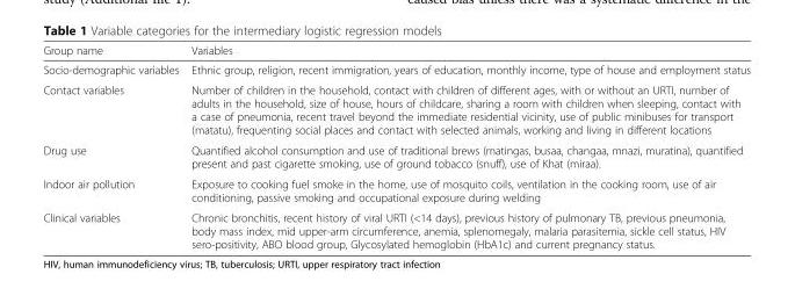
<table><thead><tr><td>Group name</td><td>Variables</td></tr></thead><tbody><tr><td>Socio-demographic variables</td><td>Ethnic group, religion, recent immigration, years of education, monthly income, type of house and employment status</td></tr><tr><td>Contact variables</td><td>Number of children in the household, contact with children of different ages, with or without an URTI, number of adults in the household, size of house, hours of childcare, sharing a room with children when sleeping, contact with a case of pneumonia, recent travel beyond the immediate residential vicinity, use of public minibuses for transport (matatu), frequenting social places and contact with selected animals, working and living in different locations</td></tr><tr><td>Drug use</td><td>Quantified alcohol consumption and use of traditional brews (matingas, busaa, changaa, mnazi, muratina), quantified present and past cigarette smoking, use of ground tobacco (snuff), use of Khat (miraa).</td></tr><tr><td>Indoor air pollution</td><td>Exposure to cooking fuel smoke in the home, use of mosquito coils, ventilation in the cooking room, use of air conditioning, passive smoking and occupational exposure during welding</td></tr><tr><td>Clinical variables</td><td>Chronic bronchitis, recent history of viral URTI (&lt;14 days), previous history of pulmonary TB, previous pneumonia, body mass index, mid upper-arm circumference, anemia, splenomegaly, malaria parasitemia, sickle cell status, HIV sero-positivity, ABO blood group, Glycosylated hemoglobin (HbA1c) and current pregnancy status.</td></tr></tbody></table>